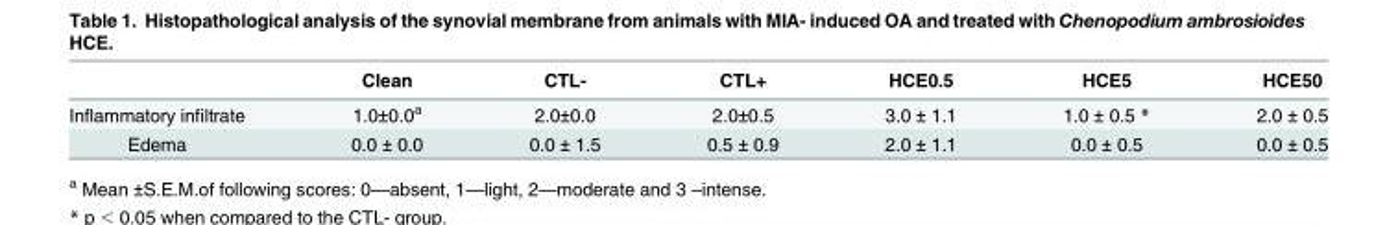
<table><thead><tr><td></td><td>Clean</td><td>CTL-</td><td>CTL+</td><td>HCE0.5</td><td>HCE5</td><td>HCE50</td></tr></thead><tbody><tr><td>Inflammatory infiltrate</td><td>1.0±0.0<sup>a</sup></td><td>2.0±0.0</td><td>2.0±0.5</td><td>3.0 ± 1.1</td><td>1.0 ± 0.5 *</td><td>2.0 ± 0.5</td></tr><tr><td>Edema</td><td>0.0 ± 0.0</td><td>0.0 ± 1.5</td><td>0.5 ± 0.9</td><td>2.0 ± 1.1</td><td>0.0 ± 0.5</td><td>0.0 ± 0.5</td></tr></tbody></table>